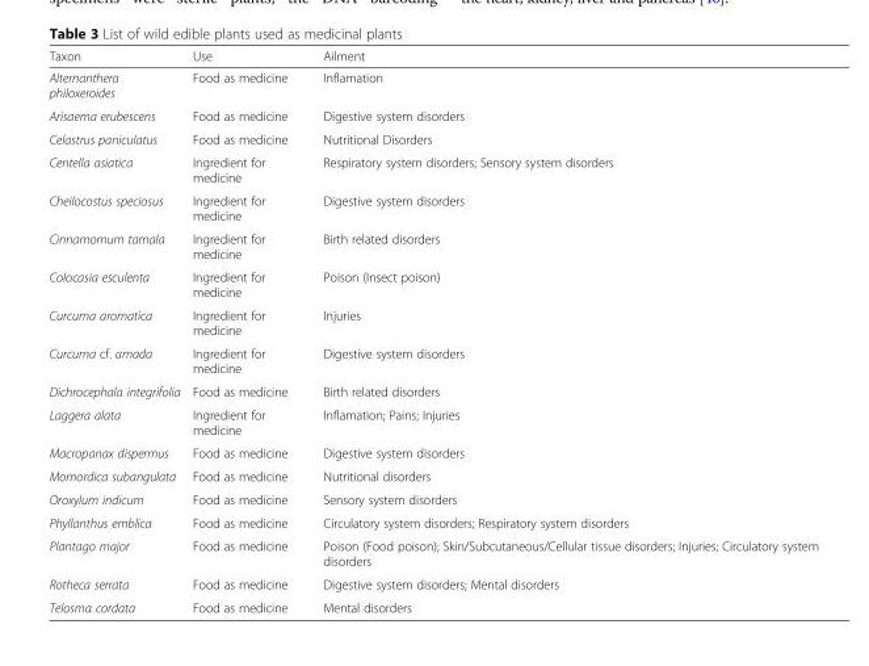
<table><thead><tr><td>Taxon</td><td>Use</td><td>Ailment</td></tr></thead><tbody><tr><td>Alternanthera philoxeroides</td><td>Food as medicine</td><td>Inflamation</td></tr><tr><td>Arisaema erubescens</td><td>Food as medicine</td><td>Digestive system disorders</td></tr><tr><td>Celastrus paniculatus</td><td>Food as medicine</td><td>Nutritional Disorders</td></tr><tr><td>Centella asiatica</td><td>Ingredient for medicine</td><td>Respiratory system disorders; Sensory system disorders</td></tr><tr><td>Cheilocostus speciosus</td><td>Ingredient for medicine</td><td>Digestive system disorders</td></tr><tr><td>Cinnamomum tamala</td><td>Ingredient for medicine</td><td>Birth related disorders</td></tr><tr><td>Colocasia esculenta</td><td>Ingredient for medicine</td><td>Poison (Insect poison)</td></tr><tr><td>Curcuma aromatica</td><td>Ingredient for medicine</td><td>Injuries</td></tr><tr><td>Curcuma cf. amada</td><td>Ingredient for medicine</td><td>Digestive system disorders</td></tr><tr><td>Dichrocephala integrifolia</td><td>Food as medicine</td><td>Birth related disorders</td></tr><tr><td>Laggera alata</td><td>Ingredient for medicine</td><td>Inflamation; Pains; Injuries</td></tr><tr><td>Macropanax dispermus</td><td>Food as medicine</td><td>Digestive system disorders</td></tr><tr><td>Momordica subangulata</td><td>Food as medicine</td><td>Nutritional disorders</td></tr><tr><td>Oroxylum indicum</td><td>Food as medicine</td><td>Sensory system disorders</td></tr><tr><td>Phyllanthus emblica</td><td>Food as medicine</td><td>Circulatory system disorders; Respiratory system disorders</td></tr><tr><td>Plantago major</td><td>Food as medicine</td><td>Poison (Food poison); Skin/Subcutaneous/Cellular tissue disorders; Injuries; Circulatory system disorders</td></tr><tr><td>Rotheca serrata</td><td>Food as medicine</td><td>Digestive system disorders; Mental disorders</td></tr><tr><td>Telosma cordata</td><td>Food as medicine</td><td>Mental disorders</td></tr></tbody></table>